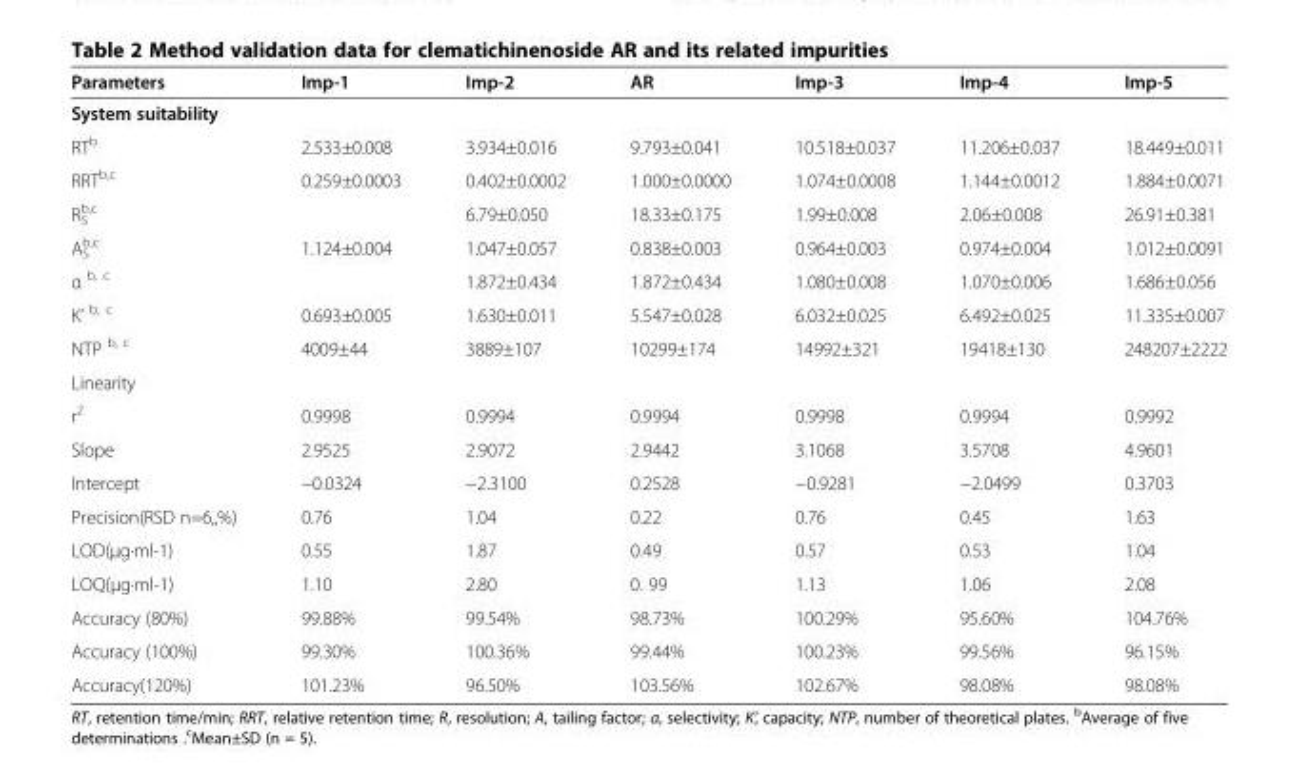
<table><thead><tr><td>Parameters</td><td>Imp-1</td><td>Imp-2</td><td>AR</td><td>Imp-3</td><td>Imp-4</td><td>Imp-5</td></tr></thead><tbody><tr><td colspan="7">System suitability</td></tr><tr><td>RT<sup>b</sup></td><td>2.533±0.008</td><td>3.934±0.016</td><td>9.793±0.041</td><td>10.518±0.037</td><td>11.206±0.037</td><td>18.449±0.011</td></tr><tr><td>RRT<sup>b,c</sup></td><td>0.259±0.0003</td><td>0.402±0.0002</td><td>1.000±0.0000</td><td>1.074±0.0008</td><td>1.144±0.0012</td><td>1.884±0.0071</td></tr><tr><td>R<sub>S</sub> <sup>b,c</sup></td><td></td><td>6.79±0.050</td><td>18.33±0.175</td><td>1.99±0.008</td><td>2.06±0.008</td><td>26.91±0.381</td></tr><tr><td>A<sub>S</sub> <sup>b,c</sup></td><td>1.124±0.004</td><td>1.047±0.057</td><td>0.838±0.003</td><td>0.964±0.003</td><td>0.974±0.004</td><td>1.012±0.0091</td></tr><tr><td>α <sup>b, c</sup></td><td></td><td>1.872±0.434</td><td>1.872±0.434</td><td>1.080±0.008</td><td>1.070±0.006</td><td>1.686±0.056</td></tr><tr><td>K’ <sup>b, c</sup></td><td>0.693±0.005</td><td>1.630±0.011</td><td>5.547±0.028</td><td>6.032±0.025</td><td>6.492±0.025</td><td>11.335±0.007</td></tr><tr><td>NTP <sup>b, c</sup></td><td>4009±44</td><td>3889±107</td><td>10299±174</td><td>14992±321</td><td>19418±130</td><td>248207±2222</td></tr><tr><td colspan="7">Linearity</td></tr><tr><td>r<sup>2</sup></td><td>0.9998</td><td>0.9994</td><td>0.9994</td><td>0.9998</td><td>0.9994</td><td>0.9992</td></tr><tr><td>Slope</td><td>2.9525</td><td>2.9072</td><td>2.9442</td><td>3.1068</td><td>3.5708</td><td>4.9601</td></tr><tr><td>Intercept</td><td>−0.0324</td><td>−2.3100</td><td>0.2528</td><td>−0.9281</td><td>−2.0499</td><td>0.3703</td></tr><tr><td>Precision(RSD n=6,,%)</td><td>0.76</td><td>1.04</td><td>0.22</td><td>0.76</td><td>0.45</td><td>1.63</td></tr><tr><td>LOD(μg·ml-1)</td><td>0.55</td><td>1.87</td><td>0.49</td><td>0.57</td><td>0.53</td><td>1.04</td></tr><tr><td>LOQ(μg·ml-1)</td><td>1.10</td><td>2.80</td><td>0. 99</td><td>1.13</td><td>1.06</td><td>2.08</td></tr><tr><td>Accuracy (80%)</td><td>99.88%</td><td>99.54%</td><td>98.73%</td><td>100.29%</td><td>95.60%</td><td>104.76%</td></tr><tr><td>Accuracy (100%)</td><td>99.30%</td><td>100.36%</td><td>99.44%</td><td>100.23%</td><td>99.56%</td><td>96.15%</td></tr><tr><td>Accuracy(120%)</td><td>101.23%</td><td>96.50%</td><td>103.56%</td><td>102.67%</td><td>98.08%</td><td>98.08%</td></tr></tbody></table>